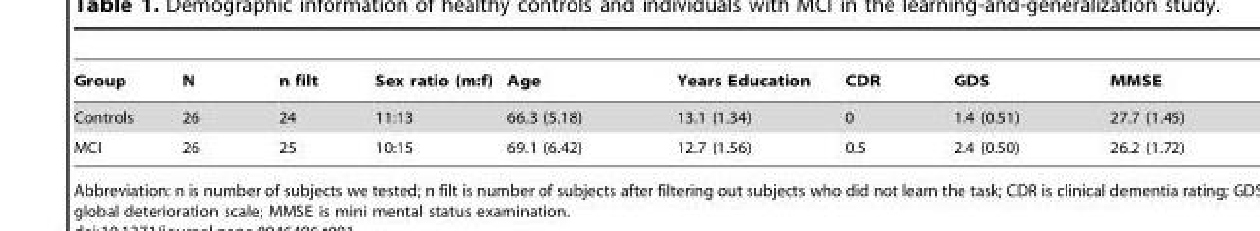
<table><thead><tr><td>Group</td><td>N</td><td>n filt</td><td>Sex ratio (m:f)</td><td>Age</td><td>Years Education</td><td>CDR</td><td>GDS</td><td>MMSE</td></tr></thead><tbody><tr><td>Controls</td><td>26</td><td>24</td><td>11:13</td><td>66.3 (5.18)</td><td>13.1 (1.34)</td><td>0</td><td>1.4 (0.51)</td><td>27.7 (1.45)</td></tr><tr><td>MCI</td><td>26</td><td>25</td><td>10:15</td><td>69.1 (6.42)</td><td>12.7 (1.56)</td><td>0.5</td><td>2.4 (0.50)</td><td>26.2 (1.72)</td></tr></tbody></table>